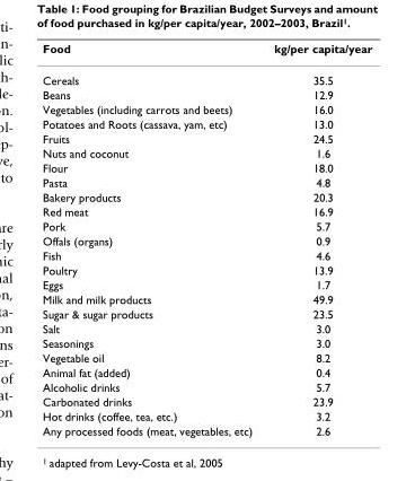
<table><thead><tr><td>Food</td><td>kg/per capita/year</td></tr></thead><tbody><tr><td>Cereals</td><td>35.5</td></tr><tr><td>Beans</td><td>12.9</td></tr><tr><td>Vegetables (including carrots and beets)</td><td>16.0</td></tr><tr><td>Potatoes and Roots (cassava, yam, etc)</td><td>13.0</td></tr><tr><td>Fruits</td><td>24.5</td></tr><tr><td>Nuts and coconut</td><td>1.6</td></tr><tr><td>Flour</td><td>18.0</td></tr><tr><td>Pasta</td><td>4.8</td></tr><tr><td>Bakery products</td><td>20.3</td></tr><tr><td>Red meat</td><td>16.9</td></tr><tr><td>Pork</td><td>5.7</td></tr><tr><td>Offals (organs)</td><td>0.9</td></tr><tr><td>Fish</td><td>4.6</td></tr><tr><td>Poultry</td><td>13.9</td></tr><tr><td>Eggs</td><td>1.7</td></tr><tr><td>Milk and milk products</td><td>49.9</td></tr><tr><td>Sugar &amp; sugar products</td><td>23.5</td></tr><tr><td>Salt</td><td>3.0</td></tr><tr><td>Seasonings</td><td>3.0</td></tr><tr><td>Vegetable oil</td><td>8.2</td></tr><tr><td>Animal fat (added)</td><td>0.4</td></tr><tr><td>Alcoholic drinks</td><td>5.7</td></tr><tr><td>Carbonated drinks</td><td>23.9</td></tr><tr><td>Hot drinks (coffee, tea, etc.)</td><td>3.2</td></tr><tr><td>Any processed foods (meat, vegetables, etc)</td><td>2.6</td></tr></tbody></table>